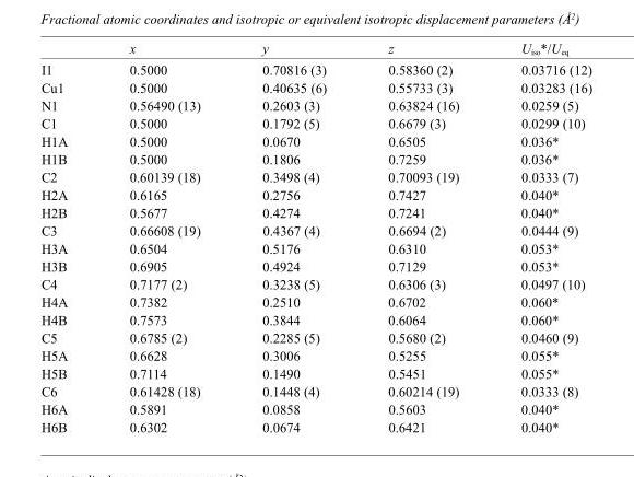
<table><thead><tr><td></td><td>x</td><td>y</td><td>z</td><td>U<sub>iso</sub>*/U<sub>eq</sub></td></tr></thead><tbody><tr><td>I1</td><td>0.5000</td><td>0.70816 (3)</td><td>0.58360 (2)</td><td>0.03716 (12)</td></tr><tr><td>Cu1</td><td>0.5000</td><td>0.40635 (6)</td><td>0.55733 (3)</td><td>0.03283 (16)</td></tr><tr><td>N1</td><td>0.56490 (13)</td><td>0.2603 (3)</td><td>0.63824 (16)</td><td>0.0259 (5)</td></tr><tr><td>C1</td><td>0.5000</td><td>0.1792 (5)</td><td>0.6679 (3)</td><td>0.0299 (10)</td></tr><tr><td>H1A</td><td>0.5000</td><td>0.0670</td><td>0.6505</td><td>0.036*</td></tr><tr><td>H1B</td><td>0.5000</td><td>0.1806</td><td>0.7259</td><td>0.036*</td></tr><tr><td>C2</td><td>0.60139 (18)</td><td>0.3498 (4)</td><td>0.70093 (19)</td><td>0.0333 (7)</td></tr><tr><td>H2A</td><td>0.6165</td><td>0.2756</td><td>0.7427</td><td>0.040*</td></tr><tr><td>H2B</td><td>0.5677</td><td>0.4274</td><td>0.7241</td><td>0.040*</td></tr><tr><td>C3</td><td>0.66608 (19)</td><td>0.4367 (4)</td><td>0.6694 (2)</td><td>0.0444 (9)</td></tr><tr><td>H3A</td><td>0.6504</td><td>0.5176</td><td>0.6310</td><td>0.053*</td></tr><tr><td>H3B</td><td>0.6905</td><td>0.4924</td><td>0.7129</td><td>0.053*</td></tr><tr><td>C4</td><td>0.7177 (2)</td><td>0.3238 (5)</td><td>0.6306 (3)</td><td>0.0497 (10)</td></tr><tr><td>H4A</td><td>0.7382</td><td>0.2510</td><td>0.6702</td><td>0.060*</td></tr><tr><td>H4B</td><td>0.7573</td><td>0.3844</td><td>0.6064</td><td>0.060*</td></tr><tr><td>C5</td><td>0.6785 (2)</td><td>0.2285 (5)</td><td>0.5680 (2)</td><td>0.0460 (9)</td></tr><tr><td>H5A</td><td>0.6628</td><td>0.3006</td><td>0.5255</td><td>0.055*</td></tr><tr><td>H5B</td><td>0.7114</td><td>0.1490</td><td>0.5451</td><td>0.055*</td></tr><tr><td>C6</td><td>0.61428 (18)</td><td>0.1448 (4)</td><td>0.60214 (19)</td><td>0.0333 (8)</td></tr><tr><td>H6A</td><td>0.5891</td><td>0.0858</td><td>0.5603</td><td>0.040*</td></tr><tr><td>H6B</td><td>0.6302</td><td>0.0674</td><td>0.6421</td><td>0.040*</td></tr></tbody></table>